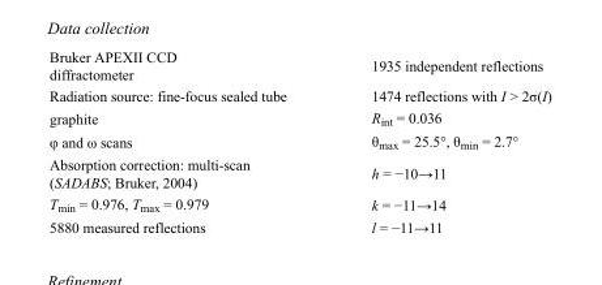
<table><tbody><tr><td>Bruker APEXII CCD diffractometer</td><td>1935 independent reflections</td></tr><tr><td>Radiation source: fine-focus sealed tube</td><td>1474 reflections with I &gt; 2σ(I)</td></tr><tr><td>graphite</td><td>R<sub>int</sub> = 0.036</td></tr><tr><td>φ and ω scans</td><td>θ<sub>max</sub> = 25.5°, θ<sub>min</sub> = 2.7°</td></tr><tr><td>Absorption correction: multi-scan (SADABS; Bruker, 2004)</td><td>h = −10→11</td></tr><tr><td>T<sub>min</sub> = 0.976, T<sub>max</sub> = 0.979</td><td>k = −11→14</td></tr><tr><td>5880 measured reflections</td><td>l = −11→11</td></tr></tbody></table>